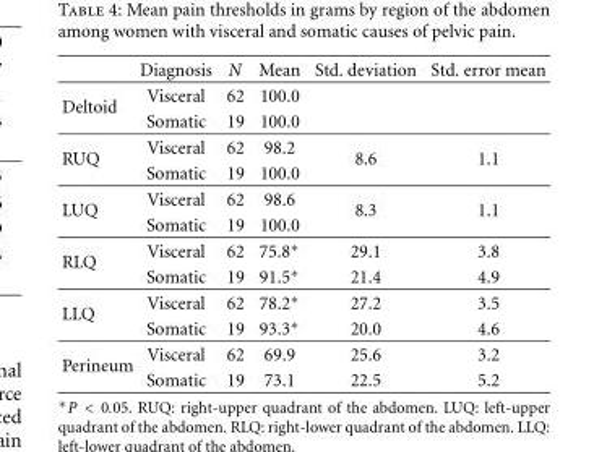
<table><thead><tr><td></td><td>Diagnosis</td><td>N</td><td>Mean</td><td>Std. deviation</td><td>Std. error mean</td></tr></thead><tbody><tr><td rowspan="2">Deltoid</td><td>Visceral</td><td>62</td><td>100.0</td><td></td><td></td></tr><tr><td>Somatic</td><td>19</td><td>100.0</td><td></td><td></td></tr><tr><td rowspan="2">RUQ</td><td>Visceral</td><td>62</td><td>98.2</td><td rowspan="2">8.6</td><td rowspan="2">1.1</td></tr><tr><td>Somatic</td><td>19</td><td>100.0</td></tr><tr><td rowspan="2">LUQ</td><td>Visceral</td><td>62</td><td>98.6</td><td rowspan="2">8.3</td><td rowspan="2">1.1</td></tr><tr><td>Somatic</td><td>19</td><td>100.0</td></tr><tr><td rowspan="2">RLQ</td><td>Visceral</td><td>62</td><td>75.8∗</td><td>29.1</td><td>3.8</td></tr><tr><td>Somatic</td><td>19</td><td>91.5∗</td><td>21.4</td><td>4.9</td></tr><tr><td rowspan="2">LLQ</td><td>Visceral</td><td>62</td><td>78.2∗</td><td>27.2</td><td>3.5</td></tr><tr><td>Somatic</td><td>19</td><td>93.3∗</td><td>20.0</td><td>4.6</td></tr><tr><td rowspan="2">Perineum</td><td>Visceral</td><td>62</td><td>69.9</td><td>25.6</td><td>3.2</td></tr><tr><td>Somatic</td><td>19</td><td>73.1</td><td>22.5</td><td>5.2</td></tr></tbody></table>